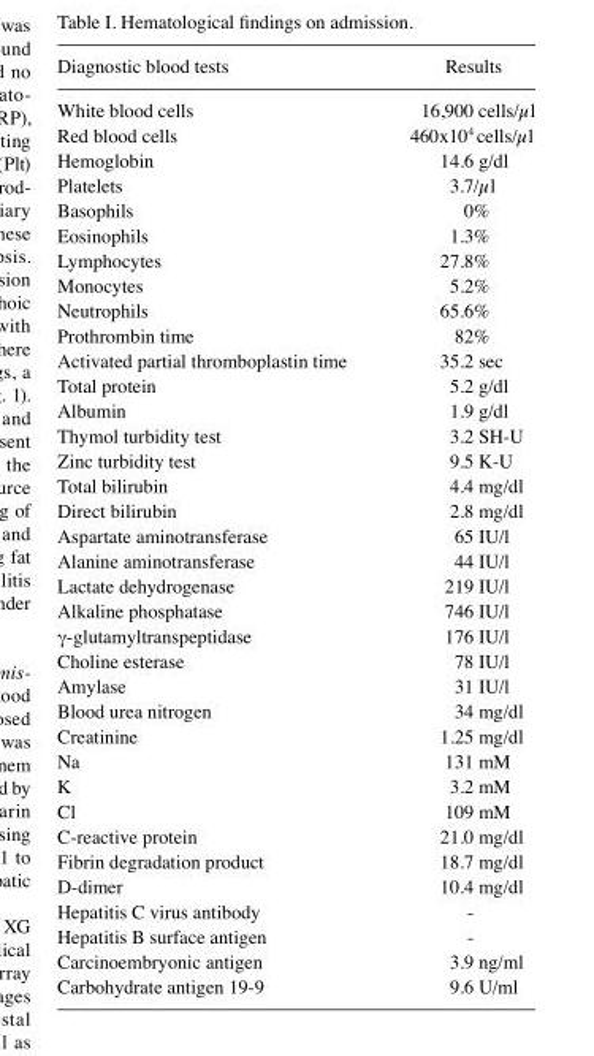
<table><thead><tr><td>Diagnostic blood tests</td><td>Results</td></tr></thead><tbody><tr><td>White blood cells</td><td>16,900 cells/µl</td></tr><tr><td>Red blood cells</td><td>460x104 cells/µl</td></tr><tr><td>Hemoglobin</td><td>14.6 g/dl</td></tr><tr><td>Platelets</td><td>3.7/µl</td></tr><tr><td>Basophils</td><td>0%</td></tr><tr><td>Eosinophils</td><td>1.3%</td></tr><tr><td>Lymphocytes</td><td>27.8%</td></tr><tr><td>Monocytes</td><td>5.2%</td></tr><tr><td>Neutrophils</td><td>65.6%</td></tr><tr><td>Prothrombin time</td><td>82%</td></tr><tr><td>Activated partial thromboplastin time</td><td>35.2 sec</td></tr><tr><td>Total protein</td><td>5.2 g/dl</td></tr><tr><td>Albumin</td><td>1.9 g/dl</td></tr><tr><td>Thymol turbidity test</td><td>3.2 SH-U</td></tr><tr><td>Zinc turbidity test</td><td>9.5 K-U</td></tr><tr><td>Total bilirubin</td><td>4.4 mg/dl</td></tr><tr><td>Direct bilirubin</td><td>2.8 mg/dl</td></tr><tr><td>Aspartate aminotransferase</td><td>65 IU/l</td></tr><tr><td>Alanine aminotransferase</td><td>44 IU/l</td></tr><tr><td>Lactate dehydrogenase</td><td>219 IU/l</td></tr><tr><td>Alkaline phosphatase</td><td>746 IU/l</td></tr><tr><td>γ‑glutamyltranspeptidase</td><td>176 IU/l</td></tr><tr><td>Choline esterase</td><td>78 IU/l</td></tr><tr><td>Amylase</td><td>31 IU/l</td></tr><tr><td>Blood urea nitrogen</td><td>34 mg/dl</td></tr><tr><td>Creatinine</td><td>1.25 mg/dl</td></tr><tr><td>Na</td><td>131 mM</td></tr><tr><td>K</td><td>3.2 mM</td></tr><tr><td>Cl</td><td>109 mM</td></tr><tr><td>C‑reactive protein</td><td>21.0 mg/dl</td></tr><tr><td>Fibrin degradation product</td><td>18.7 mg/dl</td></tr><tr><td>D‑dimer</td><td>10.4 mg/dl</td></tr><tr><td>Hepatitis C virus antibody</td><td>-</td></tr><tr><td>Hepatitis B surface antigen</td><td>-</td></tr><tr><td>Carcinoembryonic antigen</td><td>3.9 ng/ml</td></tr><tr><td>Carbohydrate antigen 19‑9</td><td>9.6 U/ml</td></tr></tbody></table>